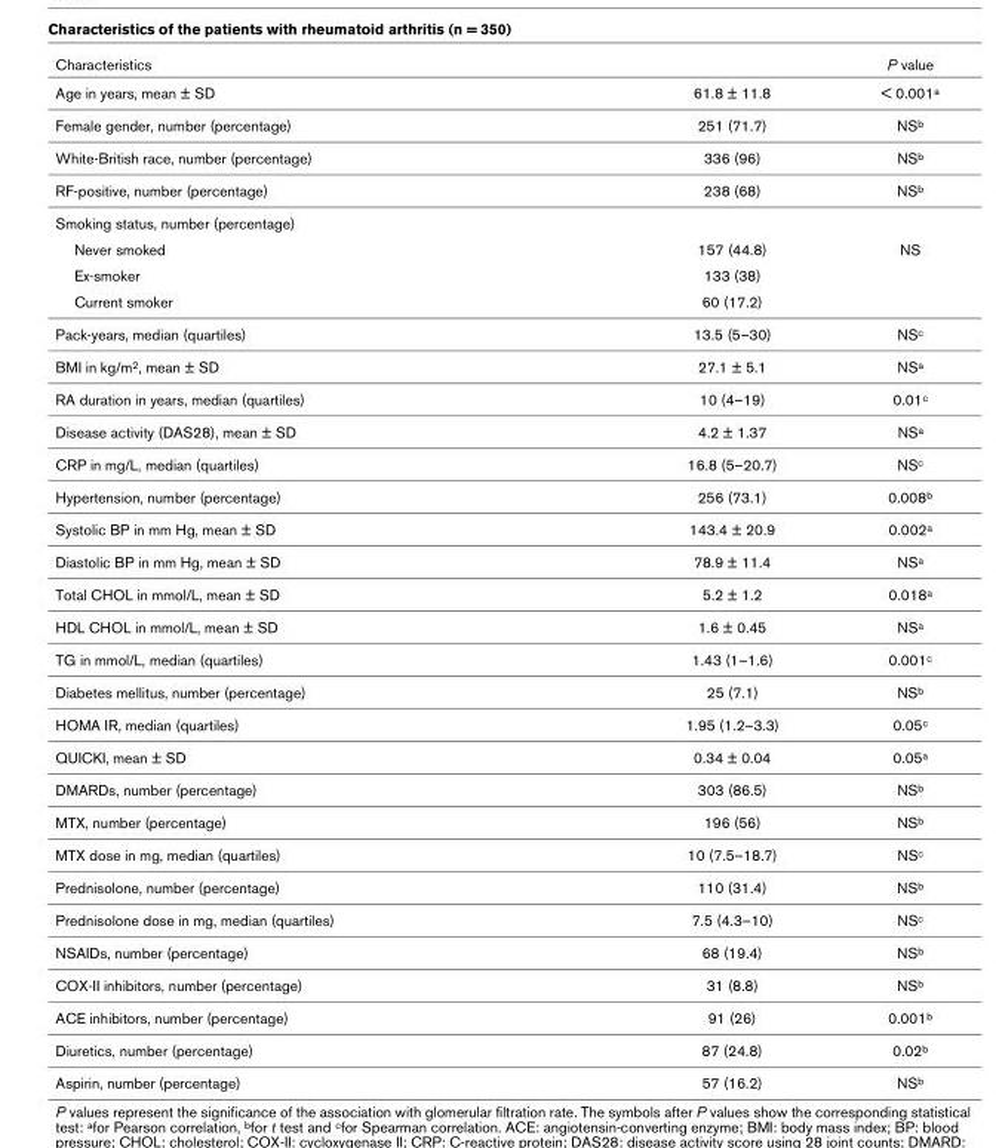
<table><thead><tr><td>Characteristics</td><td></td><td>P value</td></tr></thead><tbody><tr><td>Age in years, mean ± SD</td><td>61.8 ± 11.8</td><td>&lt; 0.001<sup>a</sup></td></tr><tr><td>Female gender, number (percentage)</td><td>251 (71.7)</td><td>NS<sup>b</sup></td></tr><tr><td>White-British race, number (percentage)</td><td>336 (96)</td><td>NS<sup>b</sup></td></tr><tr><td>RF-positive, number (percentage)</td><td>238 (68)</td><td>NS<sup>b</sup></td></tr><tr><td colspan="3">Smoking status, number (percentage)</td></tr><tr><td>Never smoked</td><td>157 (44.8)</td><td>NS</td></tr><tr><td>Ex-smoker</td><td>133 (38)</td><td></td></tr><tr><td>Current smoker</td><td>60 (17.2)</td><td></td></tr><tr><td>Pack-years, median (quartiles)</td><td>13.5 (5–30)</td><td>NS<sup>c</sup></td></tr><tr><td>BMI in kg/m<sup>2</sup>, mean ± SD</td><td>27.1 ± 5.1</td><td>NS<sup>a</sup></td></tr><tr><td>RA duration in years, median (quartiles)</td><td>10 (4–19)</td><td>0.01<sup>c</sup></td></tr><tr><td>Disease activity (DAS28), mean ± SD</td><td>4.2 ± 1.37</td><td>NS<sup>a</sup></td></tr><tr><td>CRP in mg/L, median (quartiles)</td><td>16.8 (5–20.7)</td><td>NS<sup>c</sup></td></tr><tr><td>Hypertension, number (percentage)</td><td>256 (73.1)</td><td>0.008<sup>b</sup></td></tr><tr><td>Systolic BP in mm Hg, mean ± SD</td><td>143.4 ± 20.9</td><td>0.002<sup>a</sup></td></tr><tr><td>Diastolic BP in mm Hg, mean ± SD</td><td>78.9 ± 11.4</td><td>NS<sup>a</sup></td></tr><tr><td>Total CHOL in mmol/L, mean ± SD</td><td>5.2 ± 1.2</td><td>0.018<sup>a</sup></td></tr><tr><td>HDL CHOL in mmol/L, mean ± SD</td><td>1.6 ± 0.45</td><td>NS<sup>a</sup></td></tr><tr><td>TG in mmol/L, median (quartiles)</td><td>1.43 (1–1.6)</td><td>0.001<sup>c</sup></td></tr><tr><td>Diabetes mellitus, number (percentage)</td><td>25 (7.1)</td><td>NS<sup>b</sup></td></tr><tr><td>HOMA IR, median (quartiles)</td><td>1.95 (1.2–3.3)</td><td>0.05<sup>c</sup></td></tr><tr><td>QUICKI, mean ± SD</td><td>0.34 ± 0.04</td><td>0.05<sup>a</sup></td></tr><tr><td>DMARDs, number (percentage)</td><td>303 (86.5)</td><td>NS<sup>b</sup></td></tr><tr><td>MTX, number (percentage)</td><td>196 (56)</td><td>NS<sup>b</sup></td></tr><tr><td>MTX dose in mg, median (quartiles)</td><td>10 (7.5–18.7)</td><td>NS<sup>c</sup></td></tr><tr><td>Prednisolone, number (percentage)</td><td>110 (31.4)</td><td>NS<sup>b</sup></td></tr><tr><td>Prednisolone dose in mg, median (quartiles)</td><td>7.5 (4.3–10)</td><td>NS<sup>c</sup></td></tr><tr><td>NSAIDs, number (percentage)</td><td>68 (19.4)</td><td>NS<sup>b</sup></td></tr><tr><td>COX-II inhibitors, number (percentage)</td><td>31 (8.8)</td><td>NS<sup>b</sup></td></tr><tr><td>ACE inhibitors, number (percentage)</td><td>91 (26)</td><td>0.001<sup>b</sup></td></tr><tr><td>Diuretics, number (percentage)</td><td>87 (24.8)</td><td>0.02<sup>b</sup></td></tr><tr><td>Aspirin, number (percentage)</td><td>57 (16.2)</td><td>NS<sup>b</sup></td></tr></tbody></table>